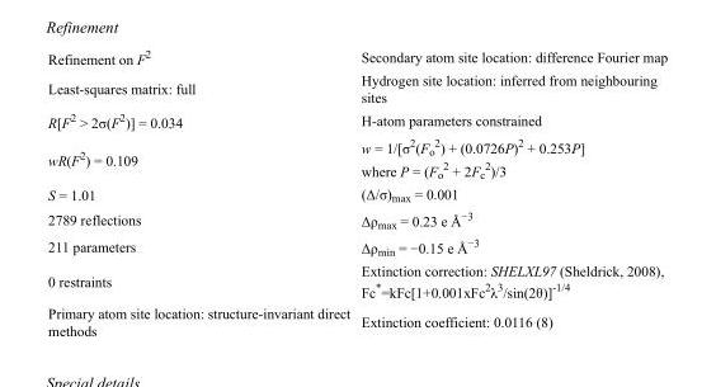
<table><tbody><tr><td>Refinement on F<sup>2</sup></td><td>Secondary atom site location: difference Fourier map</td></tr><tr><td>Least-squares matrix: full</td><td>Hydrogen site location: inferred from neighbouring sites</td></tr><tr><td>R[F<sup>2</sup> &gt; 2σ(F<sup>2</sup>)] = 0.034</td><td>H-atom parameters constrained</td></tr><tr><td>wR(F<sup>2</sup>) = 0.109</td><td>w = 1/[σ<sup>2</sup>(F<sub>o</sub> <sup>2</sup>) + (0.0726P)<sup>2</sup> + 0.253P] where P = (F<sub>o</sub> <sup>2</sup> + 2F<sub>c</sub> <sup>2</sup>)/3</td></tr><tr><td>S = 1.01</td><td>(Δ/σ)<sub>max</sub> = 0.001</td></tr><tr><td>2789 reflections</td><td>Δρ<sub>max</sub> = 0.23 e Å<sup>−3</sup></td></tr><tr><td>211 parameters</td><td>Δρ<sub>min</sub> = −0.15 e Å<sup>−3</sup></td></tr><tr><td>0 restraints</td><td>Extinction correction: SHELXL97 (Sheldrick, 2008), Fc*=kFc[1+0.001xFc<sup>2</sup>λ<sup>3</sup>/sin(2θ)]<sup>-1/4</sup></td></tr><tr><td>Primary atom site location: structure-invariant direct methods</td><td>Extinction coefficient: 0.0116 (8)</td></tr></tbody></table>